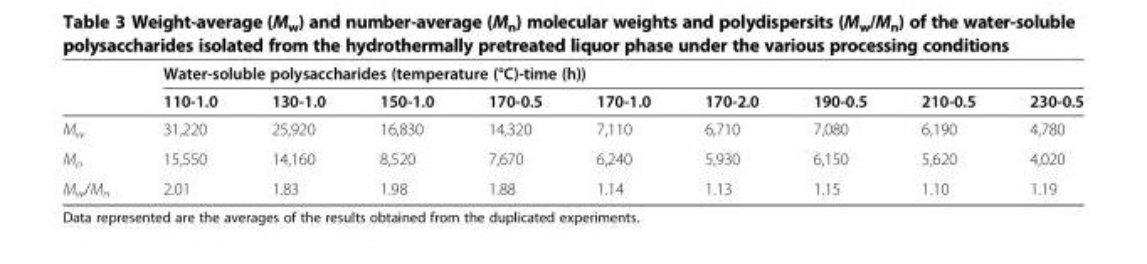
<table><thead><tr><td rowspan="2"></td><td colspan="9">Water-soluble polysaccharides (temperature (°C)-time (h))</td></tr><tr><td>110-1.0</td><td>130-1.0</td><td>150-1.0</td><td>170-0.5</td><td>170-1.0</td><td>170-2.0</td><td>190-0.5</td><td>210-0.5</td><td>230-0.5</td></tr></thead><tbody><tr><td>M<sub>w</sub></td><td>31,220</td><td>25,920</td><td>16,830</td><td>14,320</td><td>7,110</td><td>6,710</td><td>7,080</td><td>6,190</td><td>4,780</td></tr><tr><td>M<sub>n</sub></td><td>15,550</td><td>14,160</td><td>8,520</td><td>7,670</td><td>6,240</td><td>5,930</td><td>6,150</td><td>5,620</td><td>4,020</td></tr><tr><td>M<sub>w</sub>/M<sub>n</sub></td><td>2.01</td><td>1.83</td><td>1.98</td><td>1.88</td><td>1.14</td><td>1.13</td><td>1.15</td><td>1.10</td><td>1.19</td></tr></tbody></table>